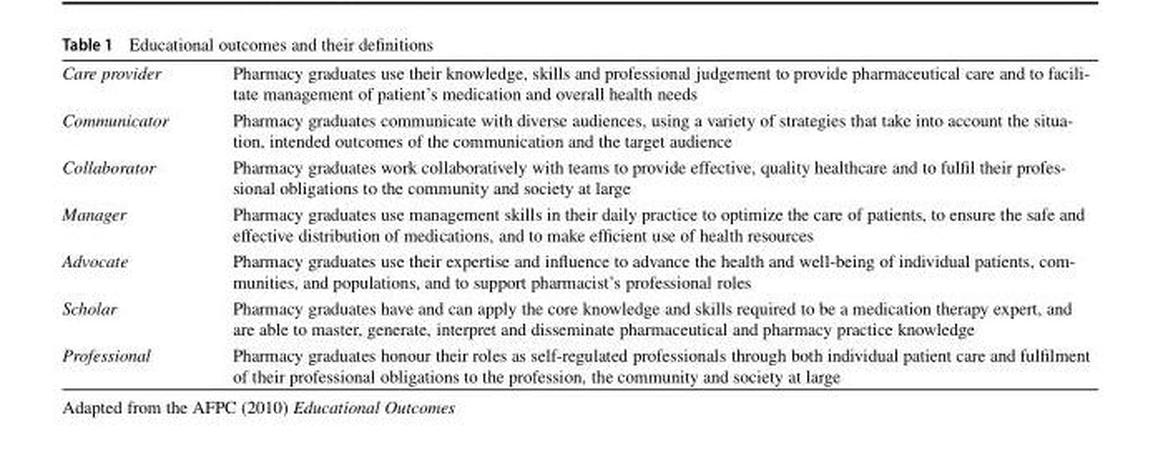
<table><tbody><tr><td>Care provider</td><td>Pharmacy graduates use their knowledge, skills and professional judgement to provide pharmaceutical care and to facili- tate management of patient’s medication and overall health needs</td></tr><tr><td>Communicator</td><td>Pharmacy graduates communicate with diverse audiences, using a variety of strategies that take into account the situa- tion, intended outcomes of the communication and the target audience</td></tr><tr><td>Collaborator</td><td>Pharmacy graduates work collaboratively with teams to provide effective, quality healthcare and to fulfil their profes- sional obligations to the community and society at large</td></tr><tr><td>Manager</td><td>Pharmacy graduates use management skills in their daily practice to optimize the care of patients, to ensure the safe and effective distribution of medications, and to make efficient use of health resources</td></tr><tr><td>Advocate</td><td>Pharmacy graduates use their expertise and influence to advance the health and well-being of individual patients, com- munities, and populations, and to support pharmacist’s professional roles</td></tr><tr><td>Scholar</td><td>Pharmacy graduates have and can apply the core knowledge and skills required to be a medication therapy expert, and are able to master, generate, interpret and disseminate pharmaceutical and pharmacy practice knowledge</td></tr><tr><td>Professional</td><td>Pharmacy graduates honour their roles as self-regulated professionals through both individual patient care and fulfilment of their professional obligations to the profession, the community and society at large</td></tr></tbody></table>